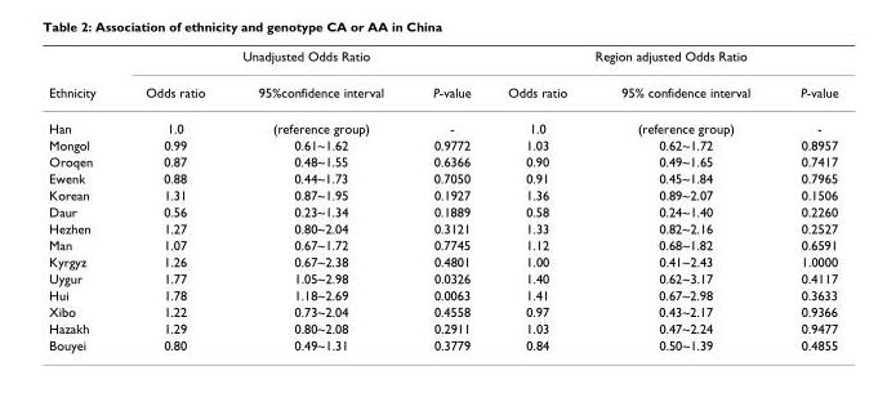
<table><thead><tr><td rowspan="2">Ethnicity</td><td colspan="3">Unadjusted Odds Ratio</td><td colspan="3">Region adjusted Odds Ratio</td></tr><tr><td>Odds ratio</td><td>95%confidence interval</td><td>P-value</td><td>Odds ratio</td><td>95% confidence interval</td><td>P-value</td></tr></thead><tbody><tr><td>Han</td><td>1.0</td><td>(reference group)</td><td>-</td><td>1.0</td><td>(reference group)</td><td>-</td></tr><tr><td>Mongol</td><td>0.99</td><td>0.61~1.62</td><td>0.9772</td><td>1.03</td><td>0.62~1.72</td><td>0.8957</td></tr><tr><td>Oroqen</td><td>0.87</td><td>0.48~1.55</td><td>0.6366</td><td>0.90</td><td>0.49~1.65</td><td>0.7417</td></tr><tr><td>Ewenk</td><td>0.88</td><td>0.44~1.73</td><td>0.7050</td><td>0.91</td><td>0.45~1.84</td><td>0.7965</td></tr><tr><td>Korean</td><td>1.31</td><td>0.87~1.95</td><td>0.1927</td><td>1.36</td><td>0.89~2.07</td><td>0.1506</td></tr><tr><td>Daur</td><td>0.56</td><td>0.23~1.34</td><td>0.1889</td><td>0.58</td><td>0.24~1.40</td><td>0.2260</td></tr><tr><td>Hezhen</td><td>1.27</td><td>0.80~2.04</td><td>0.3121</td><td>1.33</td><td>0.82~2.16</td><td>0.2527</td></tr><tr><td>Man</td><td>1.07</td><td>0.67~1.72</td><td>0.7745</td><td>1.12</td><td>0.68~1.82</td><td>0.6591</td></tr><tr><td>Kyrgyz</td><td>1.26</td><td>0.67~2.38</td><td>0.4801</td><td>1.00</td><td>0.41~2.43</td><td>1.0000</td></tr><tr><td>Uygur</td><td>1.77</td><td>1.05~2.98</td><td>0.0326</td><td>1.40</td><td>0.62~3.17</td><td>0.4117</td></tr><tr><td>Hui</td><td>1.78</td><td>1.18~2.69</td><td>0.0063</td><td>1.41</td><td>0.67~2.98</td><td>0.3633</td></tr><tr><td>Xibo</td><td>1.22</td><td>0.73~2.04</td><td>0.4558</td><td>0.97</td><td>0.43~2.17</td><td>0.9366</td></tr><tr><td>Hazakh</td><td>1.29</td><td>0.80~2.08</td><td>0.2911</td><td>1.03</td><td>0.47~2.24</td><td>0.9477</td></tr><tr><td>Bouyei</td><td>0.80</td><td>0.49~1.31</td><td>0.3779</td><td>0.84</td><td>0.50~1.39</td><td>0.4855</td></tr></tbody></table>